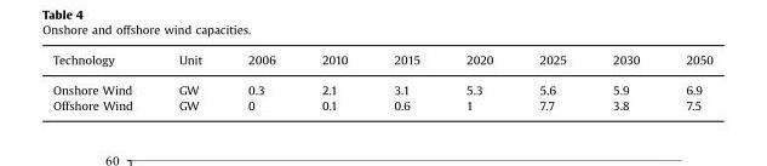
<table><thead><tr><td>Technology</td><td>Unit</td><td>2006</td><td>2010</td><td>2015</td><td>2020</td><td>2025</td><td>2030</td><td>2050</td></tr></thead><tbody><tr><td>Onshore Wind</td><td>GW</td><td>0.3</td><td>2.1</td><td>3.1</td><td>5.3</td><td>5.6</td><td>5.9</td><td>6.9</td></tr><tr><td>Offshore Wind</td><td>GW</td><td>0</td><td>0.1</td><td>0.6</td><td>1</td><td>7.7</td><td>3.8</td><td>7.5</td></tr></tbody></table>